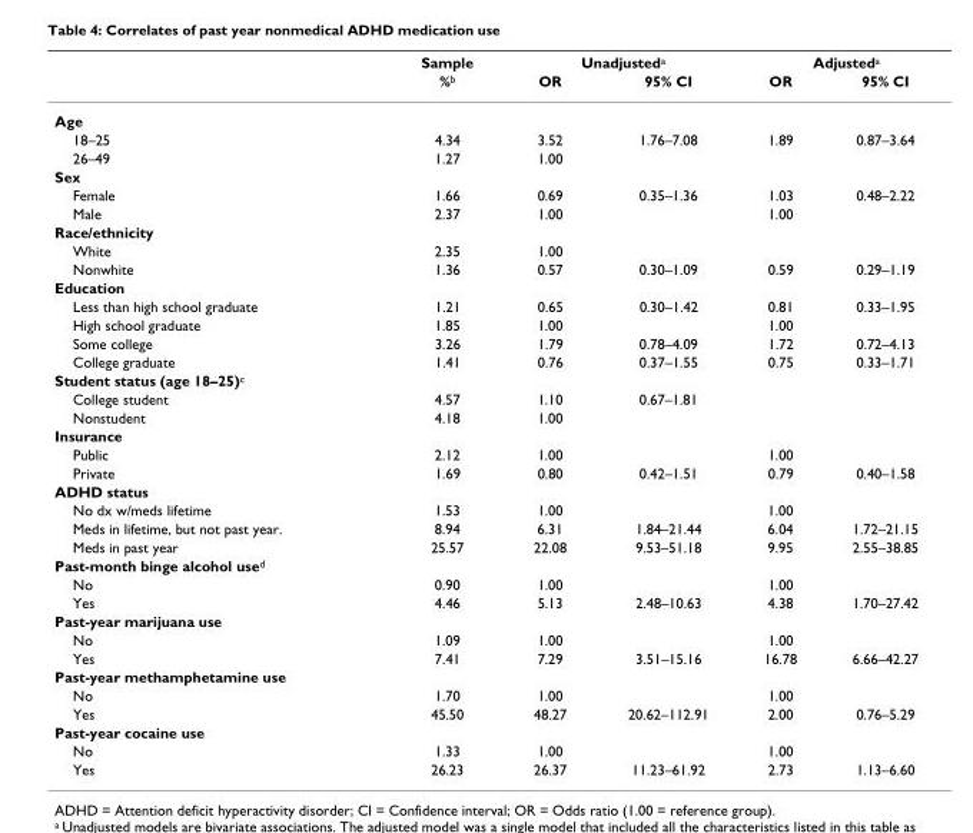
<table><thead><tr><td rowspan="2"></td><td rowspan="2">Sample %<sup>b</sup></td><td colspan="2">Unadjusted<sup>a</sup></td><td colspan="2">Adjusted<sup>a</sup></td></tr><tr><td>OR</td><td>95% CI</td><td>OR</td><td>95% CI</td></tr></thead><tbody><tr><td colspan="6">Age</td></tr><tr><td>18–25</td><td>4.34</td><td>3.52</td><td>1.76–7.08</td><td>1.89</td><td>0.87–3.64</td></tr><tr><td>26–49</td><td>1.27</td><td>1.00</td><td></td><td></td><td></td></tr><tr><td colspan="6">Sex</td></tr><tr><td>Female</td><td>1.66</td><td>0.69</td><td>0.35–1.36</td><td>1.03</td><td>0.48–2.22</td></tr><tr><td>Male</td><td>2.37</td><td>1.00</td><td></td><td>1.00</td><td></td></tr><tr><td colspan="6">Race/ethnicity</td></tr><tr><td>White</td><td>2.35</td><td>1.00</td><td></td><td></td><td></td></tr><tr><td>Nonwhite</td><td>1.36</td><td>0.57</td><td>0.30–1.09</td><td>0.59</td><td>0.29–1.19</td></tr><tr><td colspan="6">Education</td></tr><tr><td>Less than high school graduate</td><td>1.21</td><td>0.65</td><td>0.30–1.42</td><td>0.81</td><td>0.33–1.95</td></tr><tr><td>High school graduate</td><td>1.85</td><td>1.00</td><td></td><td>1.00</td><td></td></tr><tr><td>Some college</td><td>3.26</td><td>1.79</td><td>0.78–4.09</td><td>1.72</td><td>0.72–4.13</td></tr><tr><td>College graduate</td><td>1.41</td><td>0.76</td><td>0.37–1.55</td><td>0.75</td><td>0.33–1.71</td></tr><tr><td colspan="6">Student status (age 18–25)<sup>c</sup></td></tr><tr><td>College student</td><td>4.57</td><td>1.10</td><td>0.67–1.81</td><td></td><td></td></tr><tr><td>Nonstudent</td><td>4.18</td><td>1.00</td><td></td><td></td><td></td></tr><tr><td colspan="6">Insurance</td></tr><tr><td>Public</td><td>2.12</td><td>1.00</td><td></td><td>1.00</td><td></td></tr><tr><td>Private</td><td>1.69</td><td>0.80</td><td>0.42–1.51</td><td>0.79</td><td>0.40–1.58</td></tr><tr><td colspan="6">ADHD status</td></tr><tr><td>No dx w/meds lifetime</td><td>1.53</td><td>1.00</td><td></td><td>1.00</td><td></td></tr><tr><td>Meds in lifetime, but not past year.</td><td>8.94</td><td>6.31</td><td>1.84–21.44</td><td>6.04</td><td>1.72–21.15</td></tr><tr><td>Meds in past year</td><td>25.57</td><td>22.08</td><td>9.53–51.18</td><td>9.95</td><td>2.55–38.85</td></tr><tr><td colspan="6">Past-month binge alcohol use<sup>d</sup></td></tr><tr><td>No</td><td>0.90</td><td>1.00</td><td></td><td>1.00</td><td></td></tr><tr><td>Yes</td><td>4.46</td><td>5.13</td><td>2.48–10.63</td><td>4.38</td><td>1.70–27.42</td></tr><tr><td colspan="6">Past-year marijuana use</td></tr><tr><td>No</td><td>1.09</td><td>1.00</td><td></td><td>1.00</td><td></td></tr><tr><td>Yes</td><td>7.41</td><td>7.29</td><td>3.51–15.16</td><td>16.78</td><td>6.66–42.27</td></tr><tr><td colspan="6">Past-year methamphetamine use</td></tr><tr><td>No</td><td>1.70</td><td>1.00</td><td></td><td>1.00</td><td></td></tr><tr><td>Yes</td><td>45.50</td><td>48.27</td><td>20.62–112.91</td><td>2.00</td><td>0.76–5.29</td></tr><tr><td colspan="6">Past-year cocaine use</td></tr><tr><td>No</td><td>1.33</td><td>1.00</td><td></td><td>1.00</td><td></td></tr><tr><td>Yes</td><td>26.23</td><td>26.37</td><td>11.23–61.92</td><td>2.73</td><td>1.13–6.60</td></tr></tbody></table>